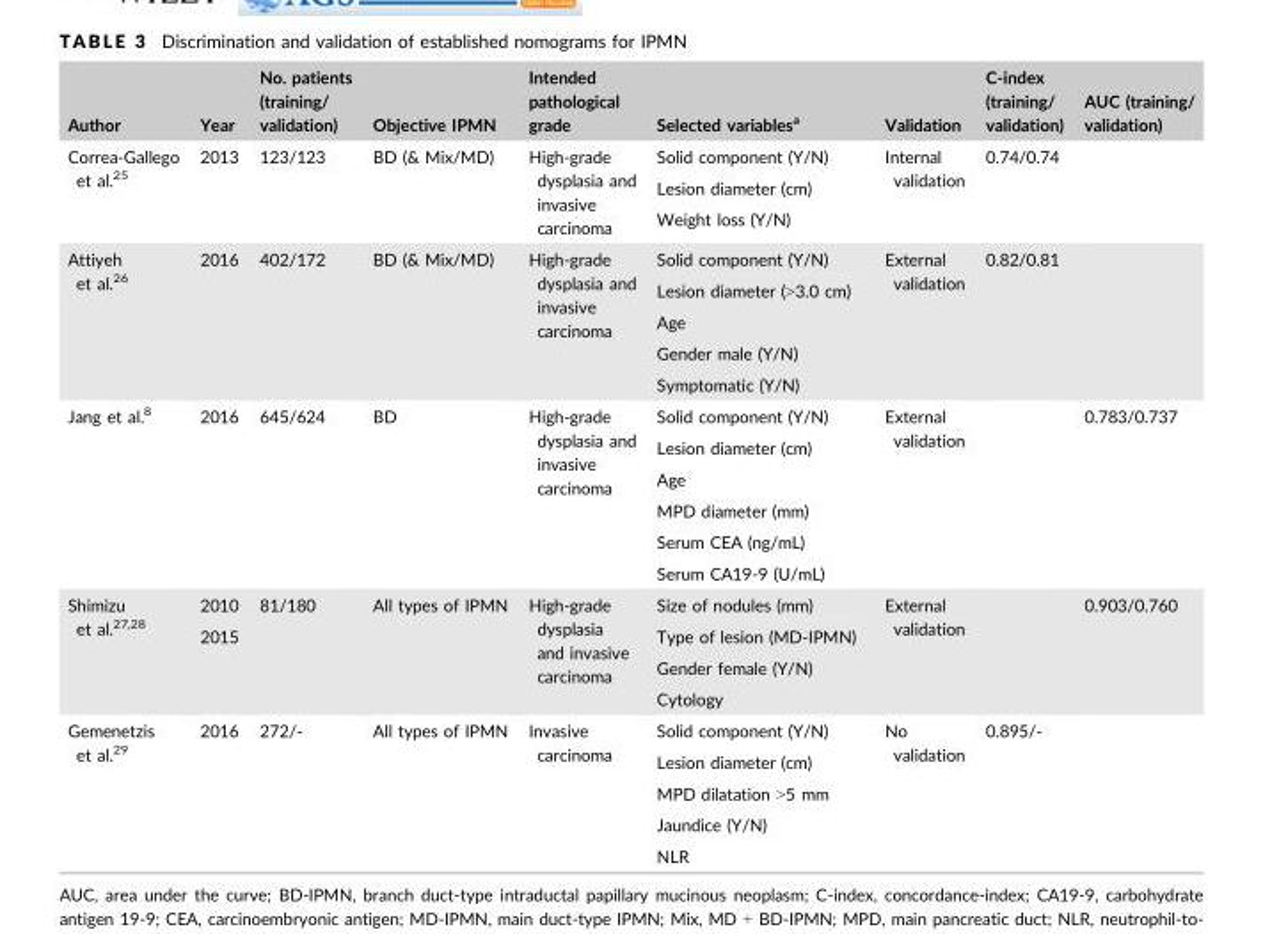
<table><thead><tr><td>Author</td><td>Year</td><td>No. patients (training/ validation)</td><td>Objective IPMN</td><td>Intended pathological grade</td><td>Selected variables<sup>a</sup></td><td>Validation</td><td>C-index (training/ validation)</td><td>AUC (training/ validation)</td></tr></thead><tbody><tr><td rowspan="3">Correa-Gallego et al.<sup>25</sup></td><td rowspan="3">2013</td><td rowspan="3">123/123</td><td rowspan="3">BD (&amp; Mix/MD)</td><td rowspan="3">High-grade dysplasia and invasive carcinoma</td><td>Solid component (Y/N)</td><td rowspan="3">Internal validation</td><td rowspan="3">0.74/0.74</td><td rowspan="3"></td></tr><tr><td>Lesion diameter (cm)</td></tr><tr><td>Weight loss (Y/N)</td></tr><tr><td rowspan="5">Attiyeh et al.<sup>26</sup></td><td rowspan="5">2016</td><td rowspan="5">402/172</td><td rowspan="5">BD (&amp; Mix/MD)</td><td rowspan="5">High-grade dysplasia and invasive carcinoma</td><td>Solid component (Y/N)</td><td rowspan="5">External validation</td><td rowspan="5">0.82/0.81</td><td rowspan="5"></td></tr><tr><td>Lesion diameter (&gt;3.0 cm)</td></tr><tr><td>Age</td></tr><tr><td>Gender male (Y/N)</td></tr><tr><td>Symptomatic (Y/N)</td></tr><tr><td rowspan="6">Jang et al.<sup>8</sup></td><td rowspan="6">2016</td><td rowspan="6">645/624</td><td rowspan="6">BD</td><td rowspan="6">High-grade dysplasia and invasive carcinoma</td><td>Solid component (Y/N)</td><td rowspan="6">External validation</td><td rowspan="6"></td><td rowspan="6">0.783/0.737</td></tr><tr><td>Lesion diameter (cm)</td></tr><tr><td>Age</td></tr><tr><td>MPD diameter (mm)</td></tr><tr><td>Serum CEA (ng/mL)</td></tr><tr><td>Serum CA19-9 (U/mL)</td></tr><tr><td rowspan="4">Shimizu et al.<sup>27</sup>,<sup>28</sup></td><td>2010</td><td rowspan="4">81/180</td><td rowspan="4">All types of IPMN</td><td rowspan="4">High-grade dysplasia and invasive carcinoma</td><td>Size of nodules (mm)</td><td rowspan="4">External validation</td><td rowspan="4"></td><td rowspan="4">0.903/0.760</td></tr><tr><td rowspan="3">2015</td><td>Type of lesion (MD-IPMN)</td></tr><tr><td>Gender female (Y/N)</td></tr><tr><td>Cytology</td></tr><tr><td rowspan="5">Gemenetzis et al.<sup>29</sup></td><td rowspan="5">2016</td><td rowspan="5">272/-</td><td rowspan="5">All types of IPMN</td><td rowspan="5">Invasive carcinoma</td><td>Solid component (Y/N)</td><td rowspan="5">No validation</td><td rowspan="5">0.895/-</td><td rowspan="5"></td></tr><tr><td>Lesion diameter (cm)</td></tr><tr><td>MPD dilatation &gt;5 mm</td></tr><tr><td>Jaundice (Y/N)</td></tr><tr><td>NLR</td></tr></tbody></table>